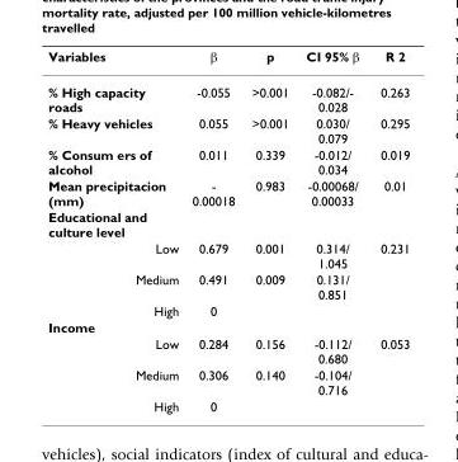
<table><thead><tr><td>Variables</td><td>β</td><td>p</td><td>CI 95% β</td><td>R 2</td></tr></thead><tbody><tr><td>% High capacity roads</td><td>-0.055</td><td>&gt;0.001</td><td>-0.082/- 0.028</td><td>0.263</td></tr><tr><td>% Heavy vehicles</td><td>0.055</td><td>&gt;0.001</td><td>0.030/ 0.079</td><td>0.295</td></tr><tr><td>% Consum ers of alcohol</td><td>0.011</td><td>0.339</td><td>-0.012/ 0.034</td><td>0.019</td></tr><tr><td>Mean precipitacion (mm)</td><td>- 0.00018</td><td>0.983</td><td>-0.00068/ 0.00033</td><td>0.01</td></tr><tr><td colspan="5">Educational and culture level</td></tr><tr><td>Low</td><td>0.679</td><td>0.001</td><td>0.314/ 1.045</td><td>0.231</td></tr><tr><td>Medium</td><td>0.491</td><td>0.009</td><td>0.131/ 0.851</td><td></td></tr><tr><td>High</td><td>0</td><td></td><td></td><td></td></tr><tr><td colspan="5">Income</td></tr><tr><td>Low</td><td>0.284</td><td>0.156</td><td>-0.112/ 0.680</td><td>0.053</td></tr><tr><td>Medium</td><td>0.306</td><td>0.140</td><td>-0.104/ 0.716</td><td></td></tr><tr><td>High</td><td>0</td><td></td><td></td><td></td></tr></tbody></table>